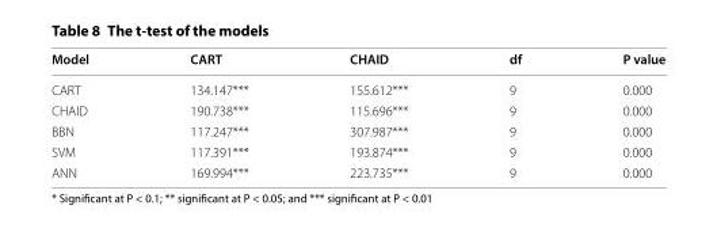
<table><thead><tr><td>Model</td><td>CART</td><td>CHAID</td><td>df</td><td>P value</td></tr></thead><tbody><tr><td>CART</td><td>134.147***</td><td>155.612***</td><td>9</td><td>0.000</td></tr><tr><td>CHAID</td><td>190.738***</td><td>115.696***</td><td>9</td><td>0.000</td></tr><tr><td>BBN</td><td>117.247***</td><td>307.987***</td><td>9</td><td>0.000</td></tr><tr><td>SVM</td><td>117.391***</td><td>193.874***</td><td>9</td><td>0.000</td></tr><tr><td>ANN</td><td>169.994***</td><td>223.735***</td><td>9</td><td>0.000</td></tr></tbody></table>